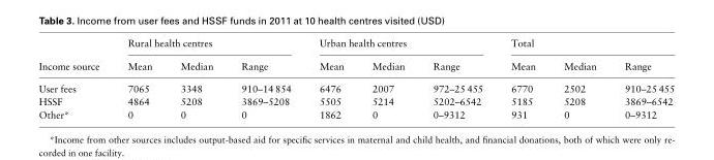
<table><thead><tr><td rowspan="2">Income source</td><td colspan="3">Rural health centres</td><td colspan="3">Urban health centres</td><td colspan="3">Total</td></tr><tr><td>Mean</td><td>Median</td><td>Range</td><td>Mean</td><td>Median</td><td>Range</td><td>Mean</td><td>Median</td><td>Range</td></tr></thead><tbody><tr><td>User fees</td><td>7065</td><td>3348</td><td>910–14 854</td><td>6476</td><td>2007</td><td>972–25 455</td><td>6770</td><td>2502</td><td>910–25 455</td></tr><tr><td>HSSF</td><td>4864</td><td>5208</td><td>3869–5208</td><td>5505</td><td>5214</td><td>5202–6542</td><td>5185</td><td>5208</td><td>3869–6542</td></tr><tr><td>Other*</td><td>0</td><td>0</td><td>0</td><td>1862</td><td>0</td><td>0–9312</td><td>931</td><td>0</td><td>0–9312</td></tr></tbody></table>